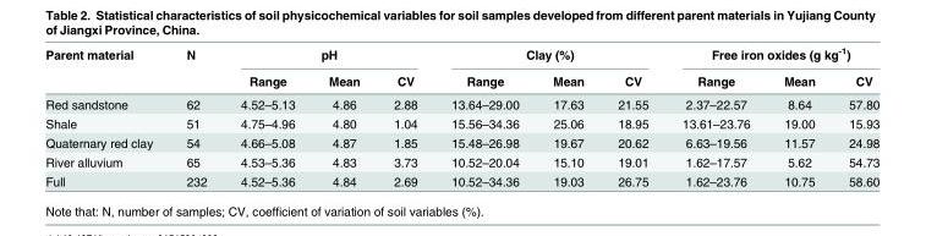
<table><thead><tr><td rowspan="2">Parent material</td><td rowspan="2">N</td><td colspan="3">pH</td><td colspan="3">Clay (%)</td><td colspan="3">Free iron oxides (g kg<sup>-1</sup>)</td></tr><tr><td>Range</td><td>Mean</td><td>CV</td><td>Range</td><td>Mean</td><td>CV</td><td>Range</td><td>Mean</td><td>CV</td></tr></thead><tbody><tr><td>Red sandstone</td><td>62</td><td>4.52–5.13</td><td>4.86</td><td>2.88</td><td>13.64–29.00</td><td>17.63</td><td>21.55</td><td>2.37–22.57</td><td>8.64</td><td>57.80</td></tr><tr><td>Shale</td><td>51</td><td>4.75–4.96</td><td>4.80</td><td>1.04</td><td>15.56–34.36</td><td>25.06</td><td>18.95</td><td>13.61–23.76</td><td>19.00</td><td>15.93</td></tr><tr><td>Quaternary red clay</td><td>54</td><td>4.66–5.08</td><td>4.87</td><td>1.85</td><td>15.48–26.98</td><td>19.67</td><td>20.62</td><td>6.63–19.56</td><td>11.57</td><td>24.98</td></tr><tr><td>River alluvium</td><td>65</td><td>4.53–5.36</td><td>4.83</td><td>3.73</td><td>10.52–20.04</td><td>15.10</td><td>19.01</td><td>1.62–17.57</td><td>5.62</td><td>54.73</td></tr><tr><td>Full</td><td>232</td><td>4.52–5.36</td><td>4.84</td><td>2.69</td><td>10.52–34.36</td><td>19.03</td><td>26.75</td><td>1.62–23.76</td><td>10.75</td><td>58.60</td></tr></tbody></table>